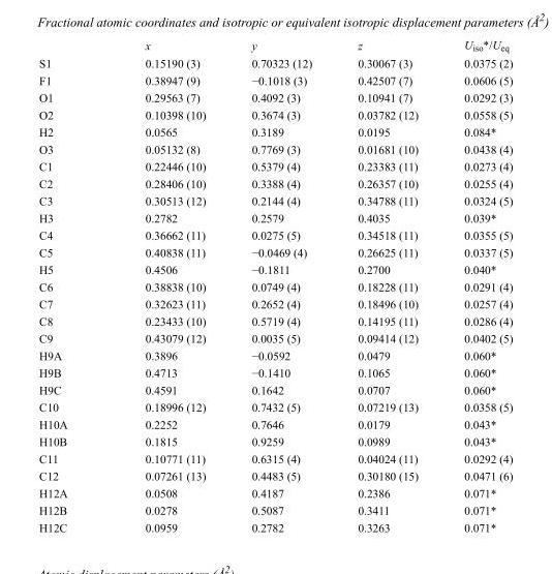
<table><thead><tr><td></td><td>x</td><td>y</td><td>z</td><td>U<sub>iso</sub>*/U<sub>eq</sub></td></tr></thead><tbody><tr><td>S1</td><td>0.15190 (3)</td><td>0.70323 (12)</td><td>0.30067 (3)</td><td>0.0375 (2)</td></tr><tr><td>F1</td><td>0.38947 (9)</td><td>−0.1018 (3)</td><td>0.42507 (7)</td><td>0.0606 (5)</td></tr><tr><td>O1</td><td>0.29563 (7)</td><td>0.4092 (3)</td><td>0.10941 (7)</td><td>0.0292 (3)</td></tr><tr><td>O2</td><td>0.10398 (10)</td><td>0.3674 (3)</td><td>0.03782 (12)</td><td>0.0558 (5)</td></tr><tr><td>H2</td><td>0.0565</td><td>0.3189</td><td>0.0195</td><td>0.084*</td></tr><tr><td>O3</td><td>0.05132 (8)</td><td>0.7769 (3)</td><td>0.01681 (10)</td><td>0.0438 (4)</td></tr><tr><td>C1</td><td>0.22446 (10)</td><td>0.5379 (4)</td><td>0.23383 (11)</td><td>0.0273 (4)</td></tr><tr><td>C2</td><td>0.28406 (10)</td><td>0.3388 (4)</td><td>0.26357 (10)</td><td>0.0255 (4)</td></tr><tr><td>C3</td><td>0.30513 (12)</td><td>0.2144 (4)</td><td>0.34788 (11)</td><td>0.0324 (5)</td></tr><tr><td>H3</td><td>0.2782</td><td>0.2579</td><td>0.4035</td><td>0.039*</td></tr><tr><td>C4</td><td>0.36662 (11)</td><td>0.0275 (5)</td><td>0.34518 (11)</td><td>0.0355 (5)</td></tr><tr><td>C5</td><td>0.40838 (11)</td><td>−0.0469 (4)</td><td>0.26625 (11)</td><td>0.0337 (5)</td></tr><tr><td>H5</td><td>0.4506</td><td>−0.1811</td><td>0.2700</td><td>0.040*</td></tr><tr><td>C6</td><td>0.38838 (10)</td><td>0.0749 (4)</td><td>0.18228 (11)</td><td>0.0291 (4)</td></tr><tr><td>C7</td><td>0.32623 (11)</td><td>0.2652 (4)</td><td>0.18496 (10)</td><td>0.0257 (4)</td></tr><tr><td>C8</td><td>0.23433 (10)</td><td>0.5719 (4)</td><td>0.14195 (11)</td><td>0.0286 (4)</td></tr><tr><td>C9</td><td>0.43079 (12)</td><td>0.0035 (5)</td><td>0.09414 (12)</td><td>0.0402 (5)</td></tr><tr><td>H9A</td><td>0.3896</td><td>−0.0592</td><td>0.0479</td><td>0.060*</td></tr><tr><td>H9B</td><td>0.4713</td><td>−0.1410</td><td>0.1065</td><td>0.060*</td></tr><tr><td>H9C</td><td>0.4591</td><td>0.1642</td><td>0.0707</td><td>0.060*</td></tr><tr><td>C10</td><td>0.18996 (12)</td><td>0.7432 (5)</td><td>0.07219 (13)</td><td>0.0358 (5)</td></tr><tr><td>H10A</td><td>0.2252</td><td>0.7646</td><td>0.0179</td><td>0.043*</td></tr><tr><td>H10B</td><td>0.1815</td><td>0.9259</td><td>0.0989</td><td>0.043*</td></tr><tr><td>C11</td><td>0.10771 (11)</td><td>0.6315 (4)</td><td>0.04024 (11)</td><td>0.0292 (4)</td></tr><tr><td>C12</td><td>0.07261 (13)</td><td>0.4483 (5)</td><td>0.30180 (15)</td><td>0.0471 (6)</td></tr><tr><td>H12A</td><td>0.0508</td><td>0.4187</td><td>0.2386</td><td>0.071*</td></tr><tr><td>H12B</td><td>0.0278</td><td>0.5087</td><td>0.3411</td><td>0.071*</td></tr><tr><td>H12C</td><td>0.0959</td><td>0.2782</td><td>0.3263</td><td>0.071*</td></tr></tbody></table>